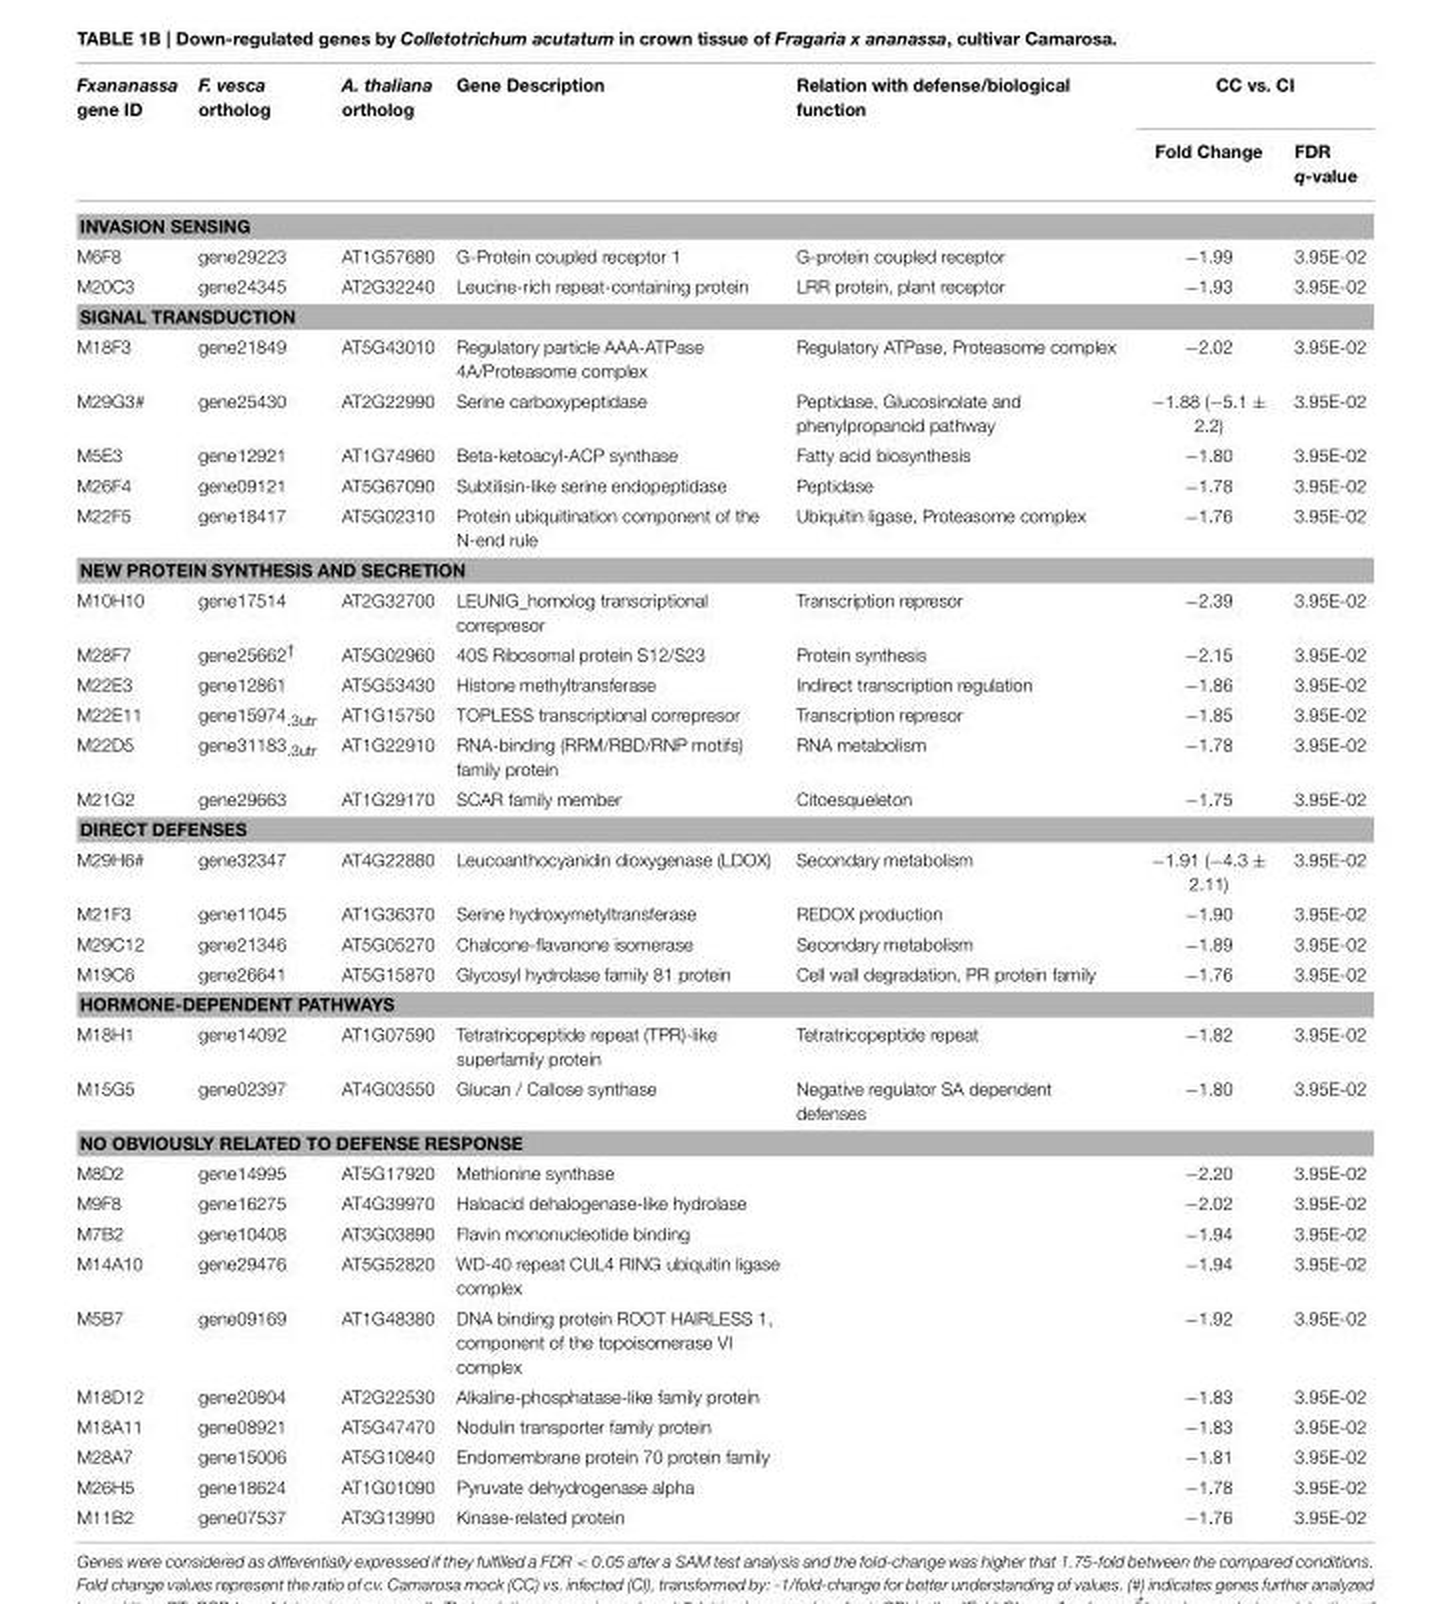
<table><thead><tr><td rowspan="2">Fxananassa gene ID</td><td rowspan="2">F. vesca ortholog</td><td rowspan="2">A. thaliana ortholog</td><td rowspan="2">Gene Description</td><td rowspan="2">Relation with defense/biological function</td><td colspan="2">CC vs. CI</td></tr><tr><td>Fold Change</td><td>FDR q-value</td></tr></thead><tbody><tr><td colspan="7">INVASION SENSING</td></tr><tr><td>M6F8</td><td>gene29223</td><td>AT1G57680</td><td>G-Protein coupled receptor 1</td><td>G-protein coupled receptor</td><td>−1.99</td><td>3.95E-02</td></tr><tr><td>M20C3</td><td>gene24345</td><td>AT2G32240</td><td>Leucine-rich repeat-containing protein</td><td>LRR protein, plant receptor</td><td>−1.93</td><td>3.95E-02</td></tr><tr><td colspan="7">SIGNAL TRANSDUCTION</td></tr><tr><td>M18F3</td><td>gene21849</td><td>AT5G43010</td><td>Regulatory particle AAA-ATPase 4A/Proteasome complex</td><td>Regulatory ATPase, Proteasome complex</td><td>−2.02</td><td>3.95E-02</td></tr><tr><td>M29G3#</td><td>gene25430</td><td>AT2G22990</td><td>Serine carboxypeptidase</td><td>Peptidase, Glucosinolate and phenylpropanoid pathway</td><td>−1.88 (−5.1 ± 2.2)</td><td>3.95E-02</td></tr><tr><td>M5E3</td><td>gene12921</td><td>AT1G74960</td><td>Beta-ketoacyl-ACP synthase</td><td>Fatty acid biosynthesis</td><td>−1.80</td><td>3.95E-02</td></tr><tr><td>M26F4</td><td>gene09121</td><td>AT5G67090</td><td>Subtilisin-like serine endopeptidase</td><td>Peptidase</td><td>−1.78</td><td>3.95E-02</td></tr><tr><td>M22F5</td><td>gene18417</td><td>AT5G02310</td><td>Protein ubiquitination component of the N-end rule</td><td>Ubiquitin ligase, Proteasome complex</td><td>−1.76</td><td>3.95E-02</td></tr><tr><td colspan="7">NEW PROTEIN SYNTHESIS AND SECRETION</td></tr><tr><td>M10H10</td><td>gene17514</td><td>AT2G32700</td><td>LEUNIG_homolog transcriptional correpresor</td><td>Transcription represor</td><td>−2.39</td><td>3.95E-02</td></tr><tr><td>M28F7</td><td>gene25662<sup>†</sup></td><td>AT5G02960</td><td>40S Ribosomal protein S12/S23</td><td>Protein synthesis</td><td>−2.15</td><td>3.95E-02</td></tr><tr><td>M22E3</td><td>gene12861</td><td>AT5G53430</td><td>Histone methyltransferase</td><td>Indirect transcription regulation</td><td>−1.86</td><td>3.95E-02</td></tr><tr><td>M22E11</td><td>gene15974<sub>.3utr</sub></td><td>AT1G15750</td><td>TOPLESS transcriptional correpresor</td><td>Transcription represor</td><td>−1.85</td><td>3.95E-02</td></tr><tr><td>M22D5</td><td>gene31183<sub>.3utr</sub></td><td>AT1G22910</td><td>RNA-binding (RRM/RBD/RNP motifs) family protein</td><td>RNA metabolism</td><td>−1.78</td><td>3.95E-02</td></tr><tr><td>M21G2</td><td>gene29663</td><td>AT1G29170</td><td>SCAR family member</td><td>Citoesqueleton</td><td>−1.75</td><td>3.95E-02</td></tr><tr><td colspan="7">DIRECT DEFENSES</td></tr><tr><td>M29H6#</td><td>gene32347</td><td>AT4G22880</td><td>Leucoanthocyanidin dioxygenase (LDOX)</td><td>Secondary metabolism</td><td>−1.91 (−4.3 ± 2.11)</td><td>3.95E-02</td></tr><tr><td>M21F3</td><td>gene11045</td><td>AT1G36370</td><td>Serine hydroxymetyltransferase</td><td>REDOX production</td><td>−1.90</td><td>3.95E-02</td></tr><tr><td>M29C12</td><td>gene21346</td><td>AT5G05270</td><td>Chalcone-flavanone isomerase</td><td>Secondary metabolism</td><td>−1.89</td><td>3.95E-02</td></tr><tr><td>M19C6</td><td>gene26641</td><td>AT5G15870</td><td>Glycosyl hydrolase family 81 protein</td><td>Cell wall degradation, PR protein family</td><td>−1.76</td><td>3.95E-02</td></tr><tr><td colspan="7">HORMONE-DEPENDENT PATHWAYS</td></tr><tr><td>M18H1</td><td>gene14092</td><td>AT1G07590</td><td>Tetratricopeptide repeat (TPR)-like superfamily protein</td><td>Tetratricopeptide repeat</td><td>−1.82</td><td>3.95E-02</td></tr><tr><td>M15G5</td><td>gene02397</td><td>AT4G03550</td><td>Glucan / Callose synthase</td><td>Negative regulator SA dependent defenses</td><td>−1.80</td><td>3.95E-02</td></tr><tr><td colspan="7">NO OBVIOUSLY RELATED TO DEFENSE RESPONSE</td></tr><tr><td>M8D2</td><td>gene14995</td><td>AT5G17920</td><td>Methionine synthase</td><td></td><td>−2.20</td><td>3.95E-02</td></tr><tr><td>M9F8</td><td>gene16275</td><td>AT4G39970</td><td>Haloacid dehalogenase-like hydrolase</td><td></td><td>−2.02</td><td>3.95E-02</td></tr><tr><td>M7B2</td><td>gene10408</td><td>AT3G03890</td><td>Flavin mononucleotide binding</td><td></td><td>−1.94</td><td>3.95E-02</td></tr><tr><td>M14A10</td><td>gene29476</td><td>AT5G52820</td><td>WD-40 repeat CUL4 RING ubiquitin ligase complex</td><td></td><td>−1.94</td><td>3.95E-02</td></tr><tr><td>M5B7</td><td>gene09169</td><td>AT1G48380</td><td>DNA binding protein ROOT HAIRLESS 1, component of the topoisomerase VI complex</td><td></td><td>−1.92</td><td>3.95E-02</td></tr><tr><td>M18D12</td><td>gene20804</td><td>AT2G22530</td><td>Alkaline-phosphatase-like family protein</td><td></td><td>−1.83</td><td>3.95E-02</td></tr><tr><td>M18A11</td><td>gene08921</td><td>AT5G47470</td><td>Nodulin transporter family protein</td><td></td><td>−1.83</td><td>3.95E-02</td></tr><tr><td>M28A7</td><td>gene15006</td><td>AT5G10840</td><td>Endomembrane protein 70 protein family</td><td></td><td>−1.81</td><td>3.95E-02</td></tr><tr><td>M26H5</td><td>gene18624</td><td>AT1G01090</td><td>Pyruvate dehydrogenase alpha</td><td></td><td>−1.78</td><td>3.95E-02</td></tr><tr><td>M11B2</td><td>gene07537</td><td>AT3G13990</td><td>Kinase-related protein</td><td></td><td>−1.76</td><td>3.95E-02</td></tr></tbody></table>